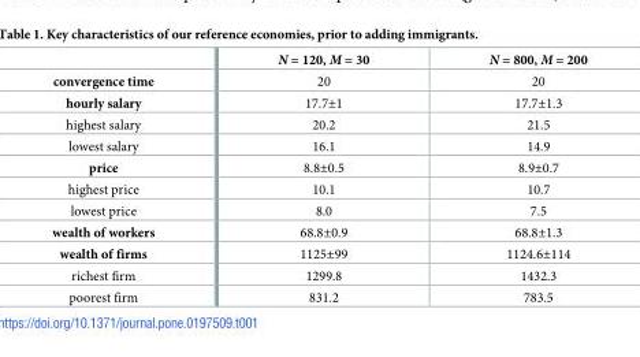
<table><thead><tr><td></td><td>N = 120, M = 30</td><td>N = 800, M = 200</td></tr></thead><tbody><tr><td>convergence time</td><td>20</td><td>20</td></tr><tr><td>hourly salary</td><td>17.7±1</td><td>17.7±1.3</td></tr><tr><td>highest salary</td><td>20.2</td><td>21.5</td></tr><tr><td>lowest salary</td><td>16.1</td><td>14.9</td></tr><tr><td>price</td><td>8.8±0.5</td><td>8.9±0.7</td></tr><tr><td>highest price</td><td>10.1</td><td>10.7</td></tr><tr><td>lowest price</td><td>8.0</td><td>7.5</td></tr><tr><td>wealth of workers</td><td>68.8±0.9</td><td>68.8±1.3</td></tr><tr><td>wealth of firms</td><td>1125±99</td><td>1124.6±114</td></tr><tr><td>richest firm</td><td>1299.8</td><td>1432.3</td></tr><tr><td>poorest firm</td><td>831.2</td><td>783.5</td></tr></tbody></table>